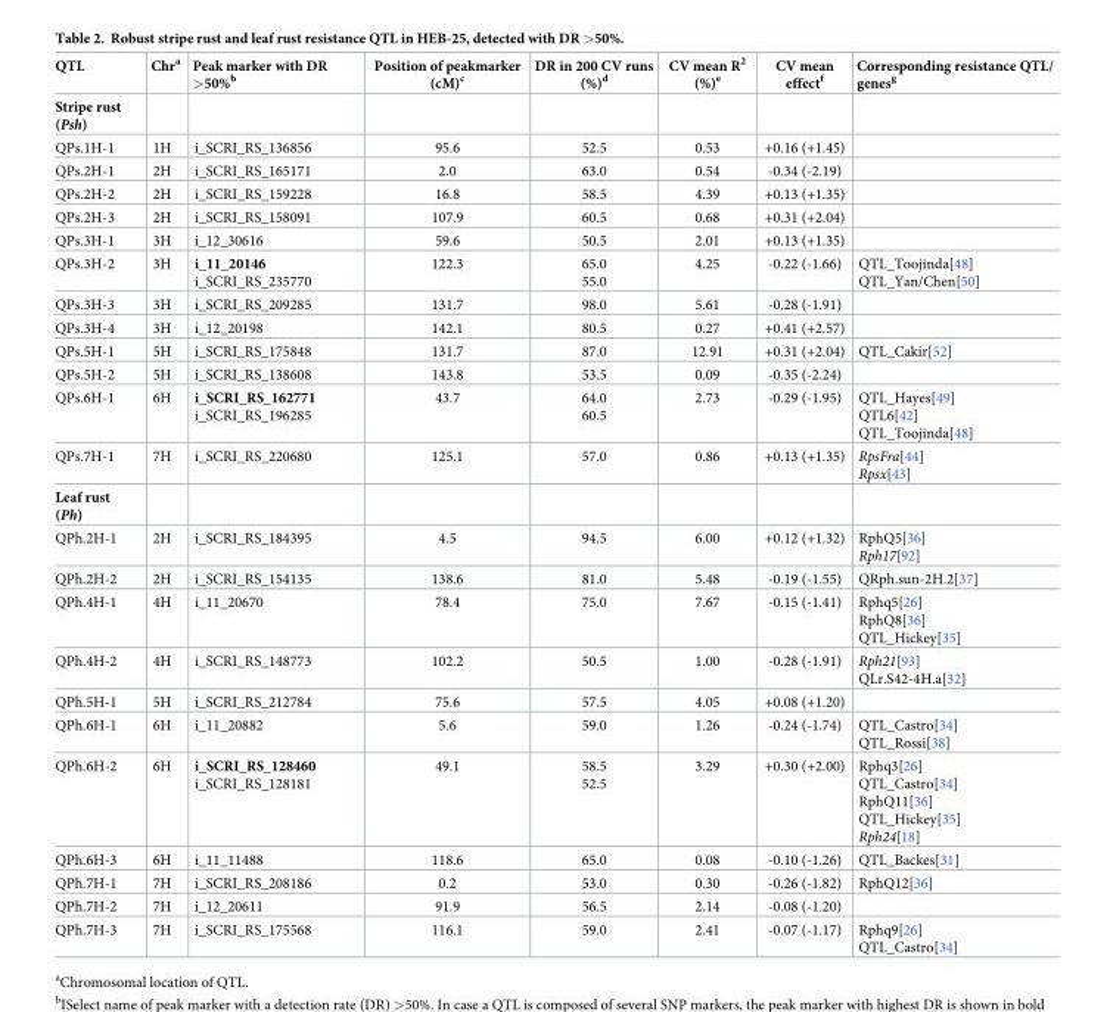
<table><thead><tr><td>QTL</td><td>Chr<sup>a</sup></td><td>Peak marker with DR &gt;50%<sup>b</sup></td><td>Position of peakmarker (cM)<sup>c</sup></td><td>DR in 200 CV runs (%)<sup>d</sup></td><td>CV mean R<sup>2</sup> (%)<sup>e</sup></td><td>CV mean effect<sup>f</sup></td><td>Corresponding resistance QTL/ genes<sup>g</sup></td></tr></thead><tbody><tr><td colspan="8">Stripe rust (Psh)</td></tr><tr><td>QPs.1H-1</td><td>1H</td><td>i_SCRI_RS_136856</td><td>95.6</td><td>52.5</td><td>0.53</td><td>+0.16 (+1.45)</td><td></td></tr><tr><td>QPs.2H-1</td><td>2H</td><td>i_SCRI_RS_165171</td><td>2.0</td><td>63.0</td><td>0.54</td><td>-0.34 (-2.19)</td><td></td></tr><tr><td>QPs.2H-2</td><td>2H</td><td>i_SCRI_RS_159228</td><td>16.8</td><td>58.5</td><td>4.39</td><td>+0.13 (+1.35)</td><td></td></tr><tr><td>QPs.2H-3</td><td>2H</td><td>i_SCRI_RS_158091</td><td>107.9</td><td>60.5</td><td>0.68</td><td>+0.31 (+2.04)</td><td></td></tr><tr><td>QPs.3H-1</td><td>3H</td><td>i_12_30616</td><td>59.6</td><td>50.5</td><td>2.01</td><td>+0.13 (+1.35)</td><td></td></tr><tr><td>QPs.3H-2</td><td>3H</td><td>i_11_20146 i_SCRI_RS_235770</td><td>122.3</td><td>65.0 55.0</td><td>4.25</td><td>-0.22 (-1.66)</td><td>QTL_Toojinda[48] QTL_Yan/Chen[50]</td></tr><tr><td>QPs.3H-3</td><td>3H</td><td>i_SCRI_RS_209285</td><td>131.7</td><td>98.0</td><td>5.61</td><td>-0.28 (-1.91)</td><td></td></tr><tr><td>QPs.3H-4</td><td>3H</td><td>i_12_20198</td><td>142.1</td><td>80.5</td><td>0.27</td><td>+0.41 (+2.57)</td><td></td></tr><tr><td>QPs.5H-1</td><td>5H</td><td>i_SCRI_RS_175848</td><td>131.7</td><td>87.0</td><td>12.91</td><td>+0.31 (+2.04)</td><td>QTL_Cakir[52]</td></tr><tr><td>QPs.5H-2</td><td>5H</td><td>i_SCRI_RS_138608</td><td>143.8</td><td>53.5</td><td>0.09</td><td>-0.35 (-2.24)</td><td></td></tr><tr><td>QPs.6H-1</td><td>6H</td><td>i_SCRI_RS_162771 i_SCRI_RS_196285</td><td>43.7</td><td>64.0 60.5</td><td>2.73</td><td>-0.29 (-1.95)</td><td>QTL_Hayes[49] QTL6[42] QTL_Toojinda[48]</td></tr><tr><td>QPs.7H-1</td><td>7H</td><td>i_SCRI_RS_220680</td><td>125.1</td><td>57.0</td><td>0.86</td><td>+0.13 (+1.35)</td><td>RpsFra[44] Rpsx[43]</td></tr><tr><td colspan="8">Leaf rust (Ph)</td></tr><tr><td>QPh.2H-1</td><td>2H</td><td>i_SCRI_RS_184395</td><td>4.5</td><td>94.5</td><td>6.00</td><td>+0.12 (+1.32)</td><td>RphQ5[36] Rph17[92]</td></tr><tr><td>QPh.2H-2</td><td>2H</td><td>i_SCRI_RS_154135</td><td>138.6</td><td>81.0</td><td>5.48</td><td>-0.19 (-1.55)</td><td>QRph.sun-2H.2[37]</td></tr><tr><td>QPh.4H-1</td><td>4H</td><td>i_11_20670</td><td>78.4</td><td>75.0</td><td>7.67</td><td>-0.15 (-1.41)</td><td>Rphq5[26] RphQ8[36] QTL_Hickey[35]</td></tr><tr><td>QPh.4H-2</td><td>4H</td><td>i_SCRI_RS_148773</td><td>102.2</td><td>50.5</td><td>1.00</td><td>-0.28 (-1.91)</td><td>Rph21[93] QLr.S42-4H.a[32]</td></tr><tr><td>QPh.5H-1</td><td>5H</td><td>i_SCRI_RS_212784</td><td>75.6</td><td>57.5</td><td>4.05</td><td>+0.08 (+1.20)</td><td></td></tr><tr><td>QPh.6H-1</td><td>6H</td><td>i_11_20882</td><td>5.6</td><td>59.0</td><td>1.26</td><td>-0.24 (-1.74)</td><td>QTL_Castro[34] QTL_Rossi[38]</td></tr><tr><td>QPh.6H-2</td><td>6H</td><td>i_SCRI_RS_128460 i_SCRI_RS_128181</td><td>49.1</td><td>58.5 52.5</td><td>3.29</td><td>+0.30 (+2.00)</td><td>Rphq3[26] QTL_Castro[34] RphQ11[36] QTL_Hickey[35] Rph24[18]</td></tr><tr><td>QPh.6H-3</td><td>6H</td><td>i_11_11488</td><td>118.6</td><td>65.0</td><td>0.08</td><td>-0.10 (-1.26)</td><td>QTL_Backes[31]</td></tr><tr><td>QPh.7H-1</td><td>7H</td><td>i_SCRI_RS_208186</td><td>0.2</td><td>53.0</td><td>0.30</td><td>-0.26 (-1.82)</td><td>RphQ12[36]</td></tr><tr><td>QPh.7H-2</td><td>7H</td><td>i_12_20611</td><td>91.9</td><td>56.5</td><td>2.14</td><td>-0.08 (-1.20)</td><td></td></tr><tr><td>QPh.7H-3</td><td>7H</td><td>i_SCRI_RS_175568</td><td>116.1</td><td>59.0</td><td>2.41</td><td>-0.07 (-1.17)</td><td>Rphq9[26] QTL_Castro[34]</td></tr></tbody></table>